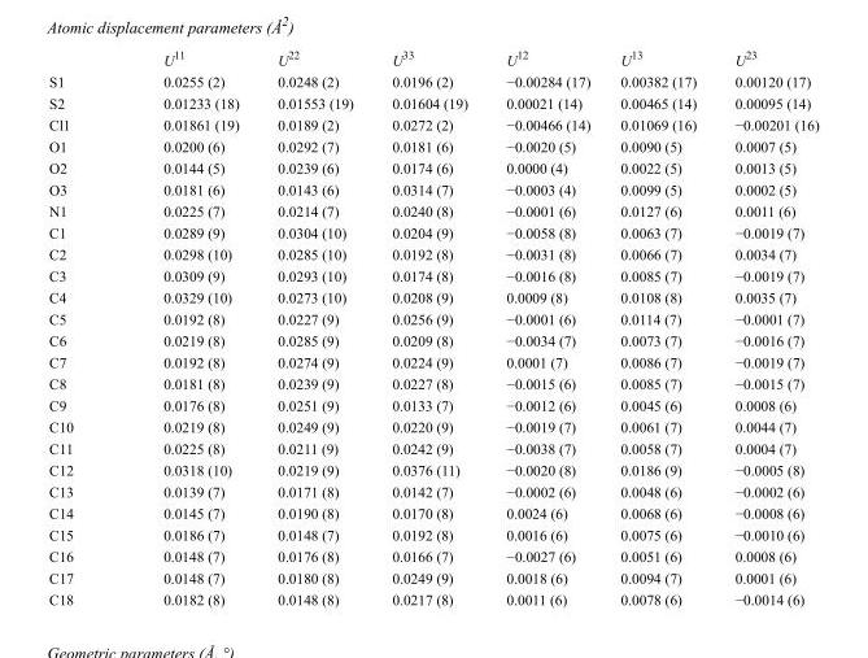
<table><thead><tr><td></td><td>U<sup>11</sup></td><td>U<sup>22</sup></td><td>U<sup>33</sup></td><td>U<sup>12</sup></td><td>U<sup>13</sup></td><td>U<sup>23</sup></td></tr></thead><tbody><tr><td>S1</td><td>0.0255 (2)</td><td>0.0248 (2)</td><td>0.0196 (2)</td><td>−0.00284 (17)</td><td>0.00382 (17)</td><td>0.00120 (17)</td></tr><tr><td>S2</td><td>0.01233 (18)</td><td>0.01553 (19)</td><td>0.01604 (19)</td><td>0.00021 (14)</td><td>0.00465 (14)</td><td>0.00095 (14)</td></tr><tr><td>Cl1</td><td>0.01861 (19)</td><td>0.0189 (2)</td><td>0.0272 (2)</td><td>−0.00466 (14)</td><td>0.01069 (16)</td><td>−0.00201 (16)</td></tr><tr><td>O1</td><td>0.0200 (6)</td><td>0.0292 (7)</td><td>0.0181 (6)</td><td>−0.0020 (5)</td><td>0.0090 (5)</td><td>0.0007 (5)</td></tr><tr><td>O2</td><td>0.0144 (5)</td><td>0.0239 (6)</td><td>0.0174 (6)</td><td>0.0000 (4)</td><td>0.0022 (5)</td><td>0.0013 (5)</td></tr><tr><td>O3</td><td>0.0181 (6)</td><td>0.0143 (6)</td><td>0.0314 (7)</td><td>−0.0003 (4)</td><td>0.0099 (5)</td><td>0.0002 (5)</td></tr><tr><td>N1</td><td>0.0225 (7)</td><td>0.0214 (7)</td><td>0.0240 (8)</td><td>−0.0001 (6)</td><td>0.0127 (6)</td><td>0.0011 (6)</td></tr><tr><td>C1</td><td>0.0289 (9)</td><td>0.0304 (10)</td><td>0.0204 (9)</td><td>−0.0058 (8)</td><td>0.0063 (7)</td><td>−0.0019 (7)</td></tr><tr><td>C2</td><td>0.0298 (10)</td><td>0.0285 (10)</td><td>0.0192 (8)</td><td>−0.0031 (8)</td><td>0.0066 (7)</td><td>0.0034 (7)</td></tr><tr><td>C3</td><td>0.0309 (9)</td><td>0.0293 (10)</td><td>0.0174 (8)</td><td>−0.0016 (8)</td><td>0.0085 (7)</td><td>−0.0019 (7)</td></tr><tr><td>C4</td><td>0.0329 (10)</td><td>0.0273 (10)</td><td>0.0208 (9)</td><td>0.0009 (8)</td><td>0.0108 (8)</td><td>0.0035 (7)</td></tr><tr><td>C5</td><td>0.0192 (8)</td><td>0.0227 (9)</td><td>0.0256 (9)</td><td>−0.0001 (6)</td><td>0.0114 (7)</td><td>−0.0001 (7)</td></tr><tr><td>C6</td><td>0.0219 (8)</td><td>0.0285 (9)</td><td>0.0209 (8)</td><td>−0.0034 (7)</td><td>0.0073 (7)</td><td>−0.0016 (7)</td></tr><tr><td>C7</td><td>0.0192 (8)</td><td>0.0274 (9)</td><td>0.0224 (9)</td><td>0.0001 (7)</td><td>0.0086 (7)</td><td>−0.0019 (7)</td></tr><tr><td>C8</td><td>0.0181 (8)</td><td>0.0239 (9)</td><td>0.0227 (8)</td><td>−0.0015 (6)</td><td>0.0085 (7)</td><td>−0.0015 (7)</td></tr><tr><td>C9</td><td>0.0176 (8)</td><td>0.0251 (9)</td><td>0.0133 (7)</td><td>−0.0012 (6)</td><td>0.0045 (6)</td><td>0.0008 (6)</td></tr><tr><td>C10</td><td>0.0219 (8)</td><td>0.0249 (9)</td><td>0.0220 (9)</td><td>−0.0019 (7)</td><td>0.0061 (7)</td><td>0.0044 (7)</td></tr><tr><td>C11</td><td>0.0225 (8)</td><td>0.0211 (9)</td><td>0.0242 (9)</td><td>−0.0038 (7)</td><td>0.0058 (7)</td><td>0.0004 (7)</td></tr><tr><td>C12</td><td>0.0318 (10)</td><td>0.0219 (9)</td><td>0.0376 (11)</td><td>−0.0020 (8)</td><td>0.0186 (9)</td><td>−0.0005 (8)</td></tr><tr><td>C13</td><td>0.0139 (7)</td><td>0.0171 (8)</td><td>0.0142 (7)</td><td>−0.0002 (6)</td><td>0.0048 (6)</td><td>−0.0002 (6)</td></tr><tr><td>C14</td><td>0.0145 (7)</td><td>0.0190 (8)</td><td>0.0170 (8)</td><td>0.0024 (6)</td><td>0.0068 (6)</td><td>−0.0008 (6)</td></tr><tr><td>C15</td><td>0.0186 (7)</td><td>0.0148 (7)</td><td>0.0192 (8)</td><td>0.0016 (6)</td><td>0.0075 (6)</td><td>−0.0010 (6)</td></tr><tr><td>C16</td><td>0.0148 (7)</td><td>0.0176 (8)</td><td>0.0166 (7)</td><td>−0.0027 (6)</td><td>0.0051 (6)</td><td>0.0008 (6)</td></tr><tr><td>C17</td><td>0.0148 (7)</td><td>0.0180 (8)</td><td>0.0249 (9)</td><td>0.0018 (6)</td><td>0.0094 (7)</td><td>0.0001 (6)</td></tr><tr><td>C18</td><td>0.0182 (8)</td><td>0.0148 (8)</td><td>0.0217 (8)</td><td>0.0011 (6)</td><td>0.0078 (6)</td><td>−0.0014 (6)</td></tr></tbody></table>